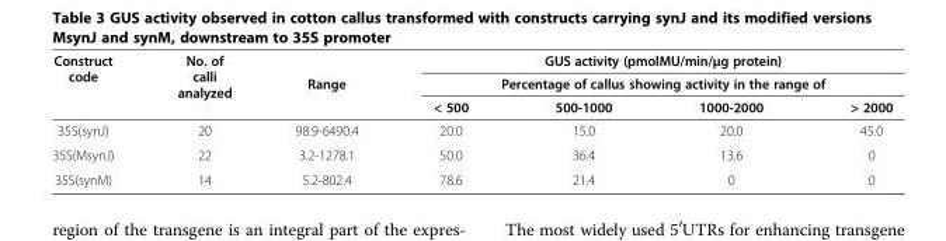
<table><thead><tr><td rowspan="3">Construct code</td><td rowspan="3">No. of calli analyzed</td><td rowspan="3">Range</td><td rowspan="2" colspan="4">GUS activity (pmolMU/min/μg protein) Percentage of callus showing activity in the range of</td></tr><tr></tr><tr><td>&lt; 500</td><td>500-1000</td><td>1000-2000</td><td>&gt; 2000</td></tr></thead><tbody><tr><td>35S(synJ)</td><td>20</td><td>98.9-6490.4</td><td>20.0</td><td>15.0</td><td>20.0</td><td>45.0</td></tr><tr><td>35S(MsynJ)</td><td>22</td><td>3.2-1278.1</td><td>50.0</td><td>36.4</td><td>13.6</td><td>0</td></tr><tr><td>35S(synM)</td><td>14</td><td>5.2-802.4</td><td>78.6</td><td>21.4</td><td>0</td><td>0</td></tr></tbody></table>